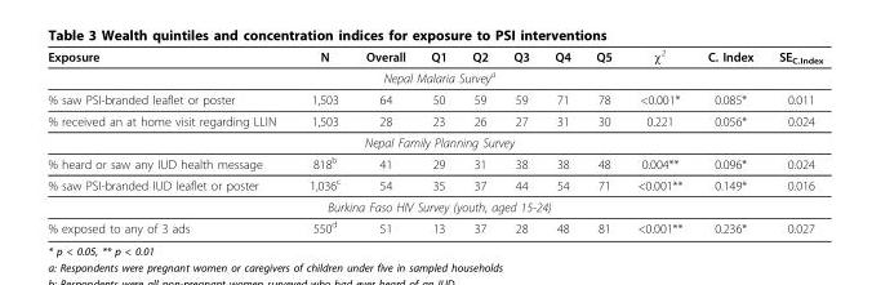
<table><thead><tr><td>Exposure</td><td>N</td><td>Overall</td><td>Q1</td><td>Q2</td><td>Q3</td><td>Q4</td><td>Q5</td><td>χ<sup>2</sup></td><td>C. Index</td><td>SE<sub>C.Index</sub></td></tr></thead><tbody><tr><td colspan="11">Nepal Malaria Survey<sup>a</sup></td></tr><tr><td>% saw PSI-branded leaflet or poster</td><td>1,503</td><td>64</td><td>50</td><td>59</td><td>59</td><td>71</td><td>78</td><td>&lt;0.001*</td><td>0.085*</td><td>0.011</td></tr><tr><td>% received an at home visit regarding LLIN</td><td>1,503</td><td>28</td><td>23</td><td>26</td><td>27</td><td>31</td><td>30</td><td>0.221</td><td>0.056*</td><td>0.024</td></tr><tr><td colspan="11">Nepal Family Planning Survey</td></tr><tr><td>% heard or saw any IUD health message</td><td>818<sup>b</sup></td><td>41</td><td>29</td><td>31</td><td>38</td><td>38</td><td>48</td><td>0.004**</td><td>0.096*</td><td>0.024</td></tr><tr><td>% saw PSI-branded IUD leaflet or poster</td><td>1,036<sup>c</sup></td><td>54</td><td>35</td><td>37</td><td>44</td><td>54</td><td>71</td><td>&lt;0.001**</td><td>0.149*</td><td>0.016</td></tr><tr><td colspan="11">Burkina Faso HIV Survey (youth, aged 15-24)</td></tr><tr><td>% exposed to any of 3 ads</td><td>550<sup>d</sup></td><td>51</td><td>13</td><td>37</td><td>28</td><td>48</td><td>81</td><td>&lt;0.001**</td><td>0.236*</td><td>0.027</td></tr></tbody></table>